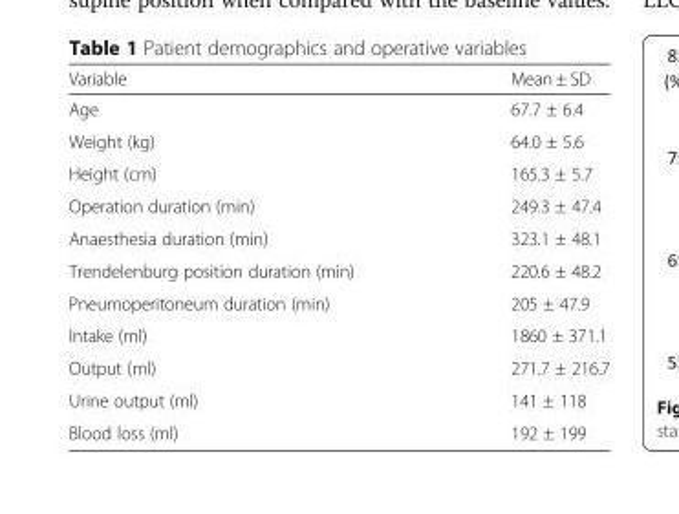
<table><thead><tr><td>Variable</td><td>Mean ± SD</td></tr></thead><tbody><tr><td>Age</td><td>67.7 ± 6.4</td></tr><tr><td>Weight (kg)</td><td>64.0 ± 5.6</td></tr><tr><td>Height (cm)</td><td>165.3 ± 5.7</td></tr><tr><td>Operation duration (min)</td><td>249.3 ± 47.4</td></tr><tr><td>Anaesthesia duration (min)</td><td>323.1 ± 48.1</td></tr><tr><td>Trendelenburg position duration (min)</td><td>220.6 ± 48.2</td></tr><tr><td>Pneumoperitoneum duration (min)</td><td>205 ± 47.9</td></tr><tr><td>Intake (ml)</td><td>1860 ± 371.1</td></tr><tr><td>Output (ml)</td><td>271.7 ± 216.7</td></tr><tr><td>Urine output (ml)</td><td>141 ± 118</td></tr><tr><td>Blood loss (ml)</td><td>192 ± 199</td></tr></tbody></table>